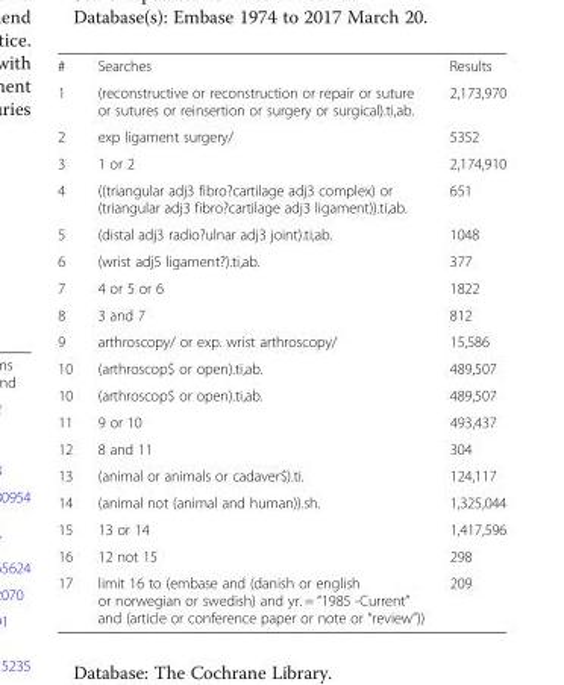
<table><tbody><tr><td>#</td><td>Searches</td><td>Results</td></tr><tr><td>1</td><td>(reconstructive or reconstruction or repair or suture or sutures or reinsertion or surgery or surgical).ti,ab.</td><td>2,173,970</td></tr><tr><td>2</td><td>exp ligament surgery/</td><td>5352</td></tr><tr><td>3</td><td>1 or 2</td><td>2,174,910</td></tr><tr><td>4</td><td>((triangular adj3 fibro?cartilage adj3 complex) or (triangular adj3 fibro?cartilage adj3 ligament)).ti,ab.</td><td>651</td></tr><tr><td>5</td><td>(distal adj3 radio?ulnar adj3 joint).ti,ab.</td><td>1048</td></tr><tr><td>6</td><td>(wrist adj5 ligament?).ti,ab.</td><td>377</td></tr><tr><td>7</td><td>4 or 5 or 6</td><td>1822</td></tr><tr><td>8</td><td>3 and 7</td><td>812</td></tr><tr><td>9</td><td>arthroscopy/ or exp. wrist arthroscopy/</td><td>15,586</td></tr><tr><td>10</td><td>(arthroscop$ or open).ti,ab.</td><td>489,507</td></tr><tr><td>10</td><td>(arthroscop$ or open).ti,ab.</td><td>489,507</td></tr><tr><td>11</td><td>9 or 10</td><td>493,437</td></tr><tr><td>12</td><td>8 and 11</td><td>304</td></tr><tr><td>13</td><td>(animal or animals or cadaver$).ti.</td><td>124,117</td></tr><tr><td>14</td><td>(animal not (animal and human)).sh.</td><td>1,325,044</td></tr><tr><td>15</td><td>13 or 14</td><td>1,417,596</td></tr><tr><td>16</td><td>12 not 15</td><td>298</td></tr><tr><td>17</td><td>limit 16 to (embase and (danish or english or norwegian or swedish) and yr. = “1985 -Current” and (article or conference paper or note or “review”))</td><td>209</td></tr></tbody></table>